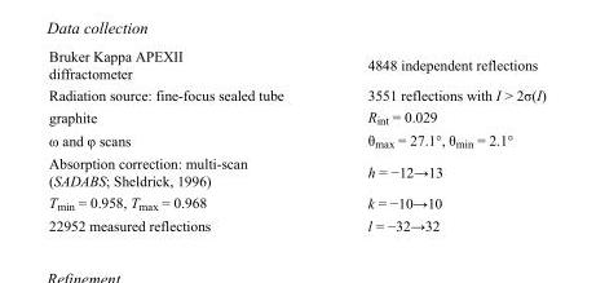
<table><tbody><tr><td>Bruker Kappa APEXII diffractometer</td><td>4848 independent reflections</td></tr><tr><td>Radiation source: fine-focus sealed tube</td><td>3551 reflections with I &gt; 2σ(I)</td></tr><tr><td>graphite</td><td>R<sub>int</sub> = 0.029</td></tr><tr><td>ω and φ scans</td><td>θ<sub>max</sub> = 27.1°, θ<sub>min</sub> = 2.1°</td></tr><tr><td>Absorption correction: multi-scan (SADABS; Sheldrick, 1996)</td><td>h = −12→13</td></tr><tr><td>T<sub>min</sub> = 0.958, T<sub>max</sub> = 0.968</td><td>k = −10→10</td></tr><tr><td>22952 measured reflections</td><td>l = −32→32</td></tr></tbody></table>